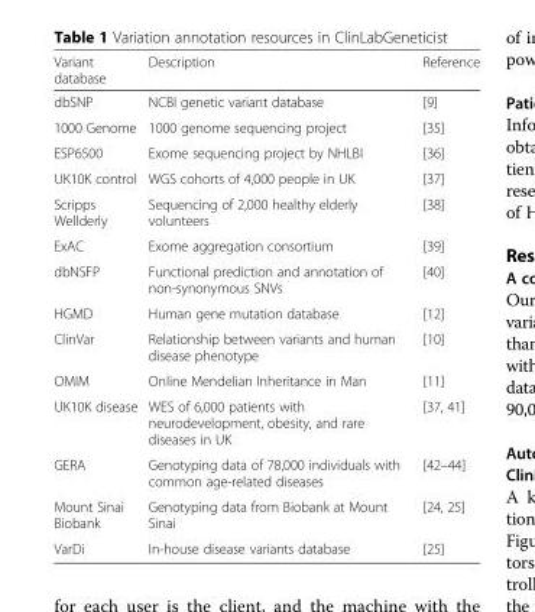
<table><thead><tr><td>Variant database</td><td>Description</td><td>Reference</td></tr></thead><tbody><tr><td>dbSNP</td><td>NCBI genetic variant database</td><td>[9]</td></tr><tr><td>1000 Genome</td><td>1000 genome sequencing project</td><td>[35]</td></tr><tr><td>ESP6500</td><td>Exome sequencing project by NHLBI</td><td>[36]</td></tr><tr><td>UK10K control</td><td>WGS cohorts of 4,000 people in UK</td><td>[37]</td></tr><tr><td>Scripps Wellderly</td><td>Sequencing of 2,000 healthy elderly volunteers</td><td>[38]</td></tr><tr><td>ExAC</td><td>Exome aggregation consortium</td><td>[39]</td></tr><tr><td>dbNSFP</td><td>Functional prediction and annotation of non-synonymous SNVs</td><td>[40]</td></tr><tr><td>HGMD</td><td>Human gene mutation database</td><td>[12]</td></tr><tr><td>ClinVar</td><td>Relationship between variants and human disease phenotype</td><td>[10]</td></tr><tr><td>OMIM</td><td>Online Mendelian Inheritance in Man</td><td>[11]</td></tr><tr><td>UK10K disease</td><td>WES of 6,000 patients with neurodevelopment, obesity, and rare diseases in UK</td><td>[37, 41]</td></tr><tr><td>GERA</td><td>Genotyping data of 78,000 individuals with common age-related diseases</td><td>[42–44]</td></tr><tr><td>Mount Sinai Biobank</td><td>Genotyping data from Biobank at Mount Sinai</td><td>[24, 25]</td></tr><tr><td>VarDi</td><td>In-house disease variants database</td><td>[25]</td></tr></tbody></table>